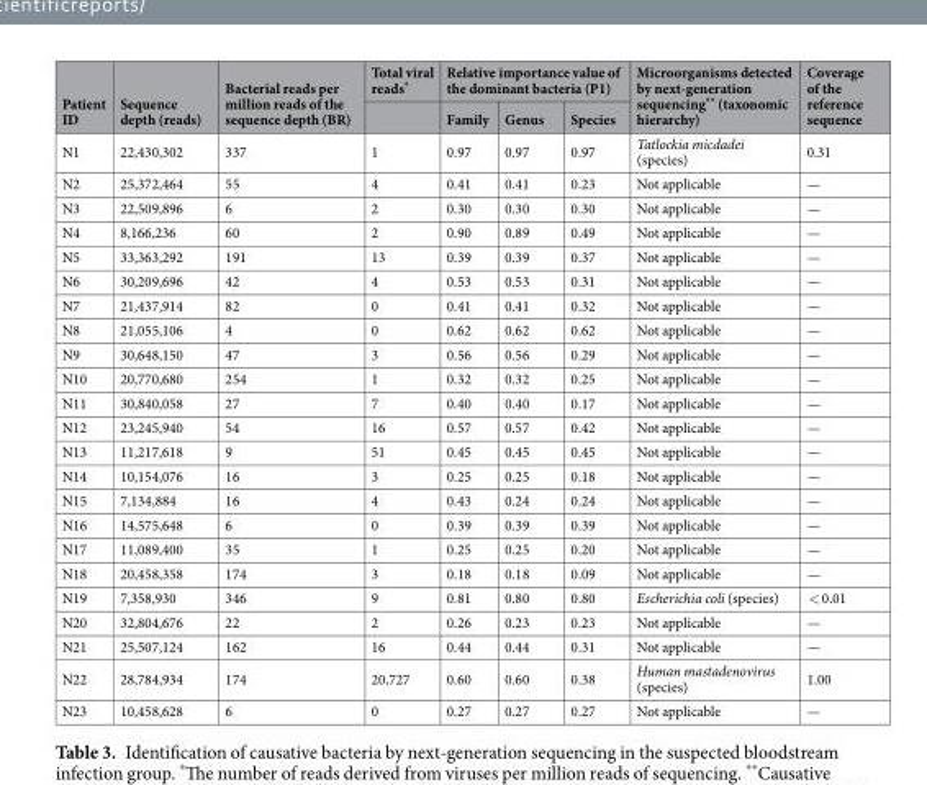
<table><thead><tr><td rowspan="2">Patient ID</td><td rowspan="2">Sequence depth (reads)</td><td rowspan="2">Bacterial reads per million reads of the sequence depth (BR)</td><td rowspan="2">Total viral reads*</td><td colspan="3">Relative importance value of the dominant bacteria (P1)</td><td rowspan="2">Microorganisms detected by next-generation sequencing** (taxonomic hierarchy)</td><td rowspan="2">Coverage of the reference sequence</td></tr><tr><td>Family</td><td>Genus</td><td>Species</td></tr></thead><tbody><tr><td>N1</td><td>22,430,302</td><td>337</td><td>1</td><td>0.97</td><td>0.97</td><td>0.97</td><td>Tatlockia micdadei (species)</td><td>0.31</td></tr><tr><td>N2</td><td>25,372,464</td><td>55</td><td>4</td><td>0.41</td><td>0.41</td><td>0.23</td><td>Not applicable</td><td>—</td></tr><tr><td>N3</td><td>22,509,896</td><td>6</td><td>2</td><td>0.30</td><td>0.30</td><td>0.30</td><td>Not applicable</td><td>—</td></tr><tr><td>N4</td><td>8,166,236</td><td>60</td><td>2</td><td>0.90</td><td>0.89</td><td>0.49</td><td>Not applicable</td><td>—</td></tr><tr><td>N5</td><td>33,363,292</td><td>191</td><td>13</td><td>0.39</td><td>0.39</td><td>0.37</td><td>Not applicable</td><td>—</td></tr><tr><td>N6</td><td>30,209,696</td><td>42</td><td>4</td><td>0.53</td><td>0.53</td><td>0.31</td><td>Not applicable</td><td>—</td></tr><tr><td>N7</td><td>21,437,914</td><td>82</td><td>0</td><td>0.41</td><td>0.41</td><td>0.32</td><td>Not applicable</td><td>—</td></tr><tr><td>N8</td><td>21,055,106</td><td>4</td><td>0</td><td>0.62</td><td>0.62</td><td>0.62</td><td>Not applicable</td><td>—</td></tr><tr><td>N9</td><td>30,648,150</td><td>47</td><td>3</td><td>0.56</td><td>0.56</td><td>0.29</td><td>Not applicable</td><td>—</td></tr><tr><td>N10</td><td>20,770,680</td><td>254</td><td>1</td><td>0.32</td><td>0.32</td><td>0.25</td><td>Not applicable</td><td>—</td></tr><tr><td>N11</td><td>30,840,058</td><td>27</td><td>7</td><td>0.40</td><td>0.40</td><td>0.17</td><td>Not applicable</td><td>—</td></tr><tr><td>N12</td><td>23,245,940</td><td>54</td><td>16</td><td>0.57</td><td>0.57</td><td>0.42</td><td>Not applicable</td><td>—</td></tr><tr><td>N13</td><td>11,217,618</td><td>9</td><td>51</td><td>0.45</td><td>0.45</td><td>0.45</td><td>Not applicable</td><td>—</td></tr><tr><td>N14</td><td>10,154,076</td><td>16</td><td>3</td><td>0.25</td><td>0.25</td><td>0.18</td><td>Not applicable</td><td>—</td></tr><tr><td>N15</td><td>7,134,884</td><td>16</td><td>4</td><td>0.43</td><td>0.24</td><td>0.24</td><td>Not applicable</td><td>—</td></tr><tr><td>N16</td><td>14,575,648</td><td>6</td><td>0</td><td>0.39</td><td>0.39</td><td>0.39</td><td>Not applicable</td><td>—</td></tr><tr><td>N17</td><td>11,089,400</td><td>35</td><td>1</td><td>0.25</td><td>0.25</td><td>0.20</td><td>Not applicable</td><td>—</td></tr><tr><td>N18</td><td>20,458,358</td><td>174</td><td>3</td><td>0.18</td><td>0.18</td><td>0.09</td><td>Not applicable</td><td>—</td></tr><tr><td>N19</td><td>7,358,930</td><td>346</td><td>9</td><td>0.81</td><td>0.80</td><td>0.80</td><td>Escherichia coli (species)</td><td>&lt; 0.01</td></tr><tr><td>N20</td><td>32,804,676</td><td>22</td><td>2</td><td>0.26</td><td>0.23</td><td>0.23</td><td>Not applicable</td><td>—</td></tr><tr><td>N21</td><td>25,507,124</td><td>162</td><td>16</td><td>0.44</td><td>0.44</td><td>0.31</td><td>Not applicable</td><td>—</td></tr><tr><td>N22</td><td>28,784,934</td><td>174</td><td>20,727</td><td>0.60</td><td>0.60</td><td>0.38</td><td>Human mastadenovirus (species)</td><td>1.00</td></tr><tr><td>N23</td><td>10,458,628</td><td>6</td><td>0</td><td>0.27</td><td>0.27</td><td>0.27</td><td>Not applicable</td><td>—</td></tr></tbody></table>